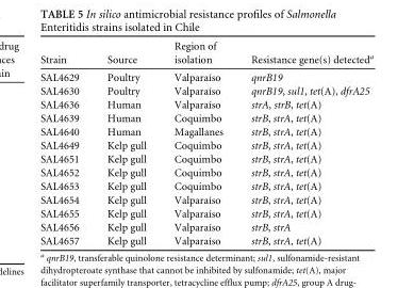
<table><thead><tr><td>Strain</td><td>Source</td><td>Region of isolation</td><td>Resistance gene(s) detected<sup>a</sup></td></tr></thead><tbody><tr><td>SAL4629</td><td>Poultry</td><td>Valparaíso</td><td>qnrB19</td></tr><tr><td>SAL4630</td><td>Poultry</td><td>Valparaíso</td><td>qnrB19, sul1, tet(A), dfrA25</td></tr><tr><td>SAL4636</td><td>Human</td><td>Valparaíso</td><td>strA, strB, tet(A)</td></tr><tr><td>SAL4639</td><td>Human</td><td>Coquimbo</td><td>strB, strA, tet(A)</td></tr><tr><td>SAL4640</td><td>Human</td><td>Magallanes</td><td>strB, strA, tet(A)</td></tr><tr><td>SAL4649</td><td>Kelp gull</td><td>Coquimbo</td><td>strB, strA, tet(A)</td></tr><tr><td>SAL4651</td><td>Kelp gull</td><td>Coquimbo</td><td>strB, strA, tet(A)</td></tr><tr><td>SAL4652</td><td>Kelp gull</td><td>Coquimbo</td><td>strB, strA, tet(A)</td></tr><tr><td>SAL4653</td><td>Kelp gull</td><td>Coquimbo</td><td>strB, strA, tet(A)</td></tr><tr><td>SAL4654</td><td>Kelp gull</td><td>Valparaíso</td><td>strB, strA, tet(A)</td></tr><tr><td>SAL4655</td><td>Kelp gull</td><td>Valparaíso</td><td>strB, strA, tet(A)</td></tr><tr><td>SAL4656</td><td>Kelp gull</td><td>Valparaíso</td><td>strB, strA</td></tr><tr><td>SAL4657</td><td>Kelp gull</td><td>Valparaíso</td><td>strB, strA, tet(A)</td></tr></tbody></table>